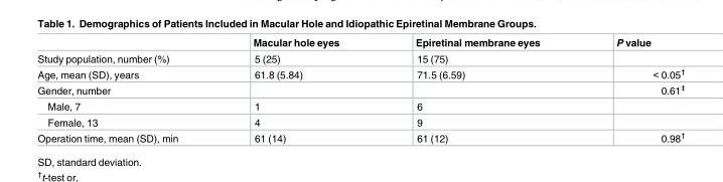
<table><thead><tr><td></td><td>Macular hole eyes</td><td>Epiretinal membrane eyes</td><td>P value</td></tr></thead><tbody><tr><td>Study population, number (%)</td><td>5 (25)</td><td>15 (75)</td><td></td></tr><tr><td>Age, mean (SD), years</td><td>61.8 (5.84)</td><td>71.5 (6.59)</td><td>&lt; 0.05<sup>†</sup></td></tr><tr><td>Gender, number</td><td></td><td></td><td>0.61<sup>‡</sup></td></tr><tr><td>Male, 7</td><td>1</td><td>6</td><td></td></tr><tr><td>Female, 13</td><td>4</td><td>9</td><td></td></tr><tr><td>Operation time, mean (SD), min</td><td>61 (14)</td><td>61 (12)</td><td>0.98<sup>†</sup></td></tr></tbody></table>